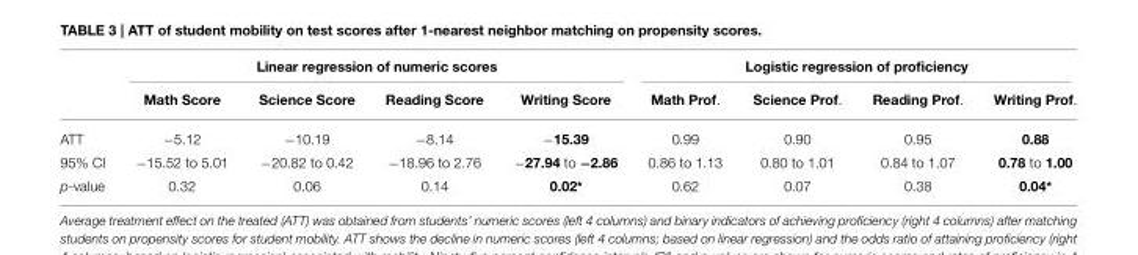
<table><thead><tr><td rowspan="2"></td><td colspan="4">Linear regression of numeric scores</td><td colspan="4">Logistic regression of proficiency</td></tr><tr><td>Math Score</td><td>Science Score</td><td>Reading Score</td><td>Writing Score</td><td>Math Prof.</td><td>Science Prof.</td><td>Reading Prof.</td><td>Writing Prof.</td></tr></thead><tbody><tr><td>ATT</td><td>−5.12</td><td>−10.19</td><td>−8.14</td><td>−15.39</td><td>0.99</td><td>0.90</td><td>0.95</td><td>0.88</td></tr><tr><td>95% CI</td><td>−15.52 to 5.01</td><td>−20.82 to 0.42</td><td>−18.96 to 2.76</td><td>−27.94 to −2.86</td><td>0.86 to 1.13</td><td>0.80 to 1.01</td><td>0.84 to 1.07</td><td>0.78 to 1.00</td></tr><tr><td>p-value</td><td>0.32</td><td>0.06</td><td>0.14</td><td>0.02*</td><td>0.62</td><td>0.07</td><td>0.38</td><td>0.04*</td></tr></tbody></table>